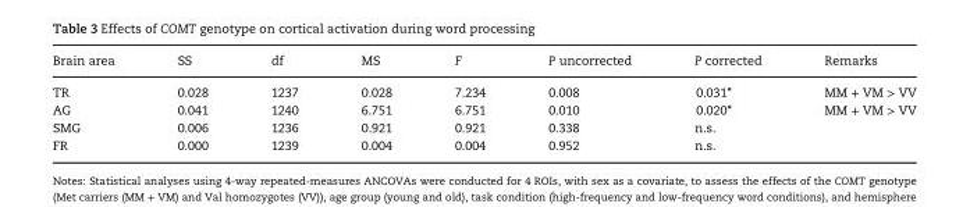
<table><thead><tr><td>Brain area</td><td>SS</td><td>df</td><td>MS</td><td>F</td><td>P uncorrected</td><td>P corrected</td><td>Remarks</td></tr></thead><tbody><tr><td>TR</td><td>0.028</td><td>1237</td><td>0.028</td><td>7.234</td><td>0.008</td><td>0.031*</td><td>MM + VM &gt; VV</td></tr><tr><td>AG</td><td>0.041</td><td>1240</td><td>6.751</td><td>6.751</td><td>0.010</td><td>0.020*</td><td>MM + VM &gt; VV</td></tr><tr><td>SMG</td><td>0.006</td><td>1236</td><td>0.921</td><td>0.921</td><td>0.338</td><td>n.s.</td><td></td></tr><tr><td>FR</td><td>0.000</td><td>1239</td><td>0.004</td><td>0.004</td><td>0.952</td><td>n.s.</td><td></td></tr></tbody></table>